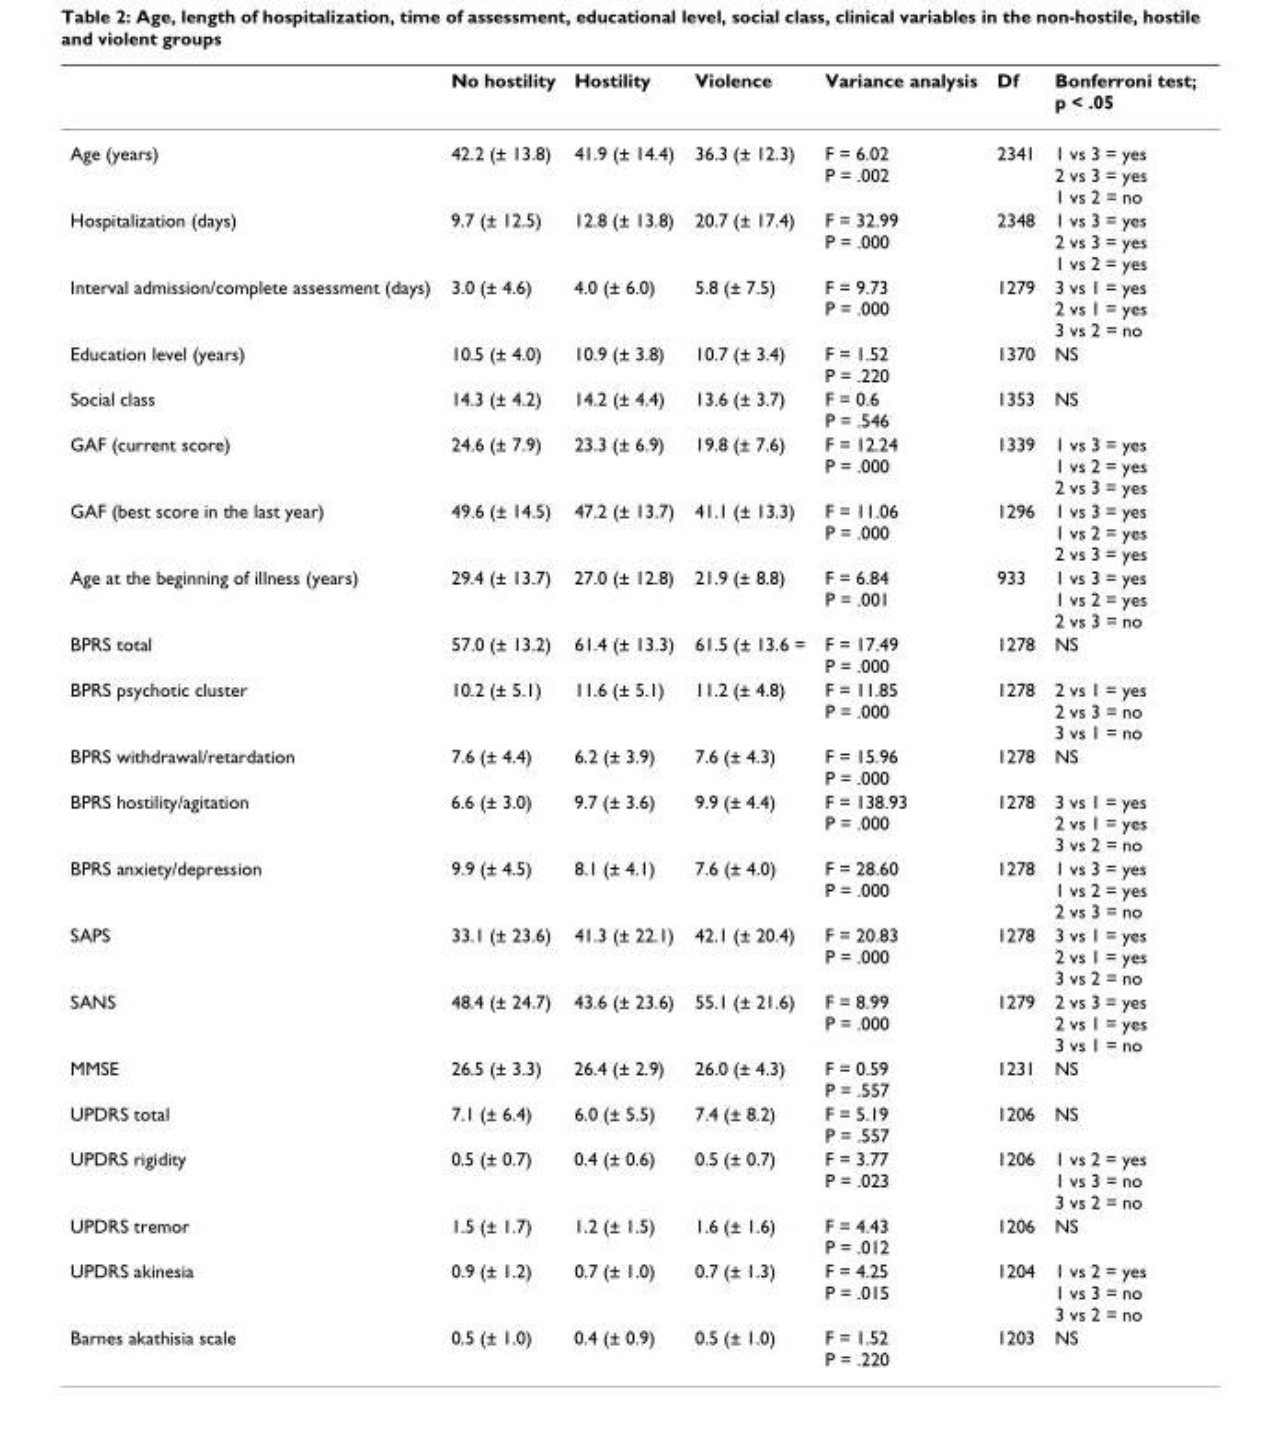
<table><thead><tr><td></td><td>No hostility</td><td>Hostility</td><td>Violence</td><td>Variance analysis</td><td>Df</td><td>Bonferroni test; p &lt; .05</td></tr></thead><tbody><tr><td>Age (years)</td><td>42.2 (± 13.8)</td><td>41.9 (± 14.4)</td><td>36.3 (± 12.3)</td><td>F = 6.02 P = .002</td><td>2341</td><td>1 vs 3 = yes 2 vs 3 = yes 1 vs 2 = no</td></tr><tr><td>Hospitalization (days)</td><td>9.7 (± 12.5)</td><td>12.8 (± 13.8)</td><td>20.7 (± 17.4)</td><td>F = 32.99 P = .000</td><td>2348</td><td>1 vs 3 = yes 2 vs 3 = yes 1 vs 2 = yes</td></tr><tr><td>Interval admission/complete assessment (days)</td><td>3.0 (± 4.6)</td><td>4.0 (± 6.0)</td><td>5.8 (± 7.5)</td><td>F = 9.73 P = .000</td><td>1279</td><td>3 vs 1 = yes 2 vs 1 = yes 3 vs 2 = no</td></tr><tr><td>Education level (years)</td><td>10.5 (± 4.0)</td><td>10.9 (± 3.8)</td><td>10.7 (± 3.4)</td><td>F = 1.52 P = .220</td><td>1370</td><td>NS</td></tr><tr><td>Social class</td><td>14.3 (± 4.2)</td><td>14.2 (± 4.4)</td><td>13.6 (± 3.7)</td><td>F = 0.6 P = .546</td><td>1353</td><td>NS</td></tr><tr><td>GAF (current score)</td><td>24.6 (± 7.9)</td><td>23.3 (± 6.9)</td><td>19.8 (± 7.6)</td><td>F = 12.24 P = .000</td><td>1339</td><td>1 vs 3 = yes 1 vs 2 = yes 2 vs 3 = yes</td></tr><tr><td>GAF (best score in the last year)</td><td>49.6 (± 14.5)</td><td>47.2 (± 13.7)</td><td>41.1 (± 13.3)</td><td>F = 11.06 P = .000</td><td>1296</td><td>1 vs 3 = yes 1 vs 2 = yes 2 vs 3 = yes</td></tr><tr><td>Age at the beginning of illness (years)</td><td>29.4 (± 13.7)</td><td>27.0 (± 12.8)</td><td>21.9 (± 8.8)</td><td>F = 6.84 P = .001</td><td>933</td><td>1 vs 3 = yes 1 vs 2 = yes 2 vs 3 = no</td></tr><tr><td>BPRS total</td><td>57.0 (± 13.2)</td><td>61.4 (± 13.3)</td><td>61.5 (± 13.6 =</td><td>F = 17.49 P = .000</td><td>1278</td><td>NS</td></tr><tr><td>BPRS psychotic cluster</td><td>10.2 (± 5.1)</td><td>11.6 (± 5.1)</td><td>11.2 (± 4.8)</td><td>F = 11.85 P = .000</td><td>1278</td><td>2 vs 1 = yes 2 vs 3 = no 3 vs 1 = no</td></tr><tr><td>BPRS withdrawal/retardation</td><td>7.6 (± 4.4)</td><td>6.2 (± 3.9)</td><td>7.6 (± 4.3)</td><td>F = 15.96 P = .000</td><td>1278</td><td>NS</td></tr><tr><td>BPRS hostility/agitation</td><td>6.6 (± 3.0)</td><td>9.7 (± 3.6)</td><td>9.9 (± 4.4)</td><td>F = 138.93 P = .000</td><td>1278</td><td>3 vs 1 = yes 2 vs 1 = yes 3 vs 2 = no</td></tr><tr><td>BPRS anxiety/depression</td><td>9.9 (± 4.5)</td><td>8.1 (± 4.1)</td><td>7.6 (± 4.0)</td><td>F = 28.60 P = .000</td><td>1278</td><td>1 vs 3 = yes 1 vs 2 = yes 2 vs 3 = no</td></tr><tr><td>SAPS</td><td>33.1 (± 23.6)</td><td>41.3 (± 22.1)</td><td>42.1 (± 20.4)</td><td>F = 20.83 P = .000</td><td>1278</td><td>3 vs 1 = yes 2 vs 1 = yes 3 vs 2 = no</td></tr><tr><td>SANS</td><td>48.4 (± 24.7)</td><td>43.6 (± 23.6)</td><td>55.1 (± 21.6)</td><td>F = 8.99 P = .000</td><td>1279</td><td>2 vs 3 = yes 2 vs 1 = yes 3 vs 1 = no</td></tr><tr><td>MMSE</td><td>26.5 (± 3.3)</td><td>26.4 (± 2.9)</td><td>26.0 (± 4.3)</td><td>F = 0.59 P = .557</td><td>1231</td><td>NS</td></tr><tr><td>UPDRS total</td><td>7.1 (± 6.4)</td><td>6.0 (± 5.5)</td><td>7.4 (± 8.2)</td><td>F = 5.19 P = .557</td><td>1206</td><td>NS</td></tr><tr><td>UPDRS rigidity</td><td>0.5 (± 0.7)</td><td>0.4 (± 0.6)</td><td>0.5 (± 0.7)</td><td>F = 3.77 P = .023</td><td>1206</td><td>1 vs 2 = yes 1 vs 3 = no 3 vs 2 = no</td></tr><tr><td>UPDRS tremor</td><td>1.5 (± 1.7)</td><td>1.2 (± 1.5)</td><td>1.6 (± 1.6)</td><td>F = 4.43 P = .012</td><td>1206</td><td>NS</td></tr><tr><td>UPDRS akinesia</td><td>0.9 (± 1.2)</td><td>0.7 (± 1.0)</td><td>0.7 (± 1.3)</td><td>F = 4.25 P = .015</td><td>1204</td><td>1 vs 2 = yes 1 vs 3 = no 3 vs 2 = no</td></tr><tr><td>Barnes akathisia scale</td><td>0.5 (± 1.0)</td><td>0.4 (± 0.9)</td><td>0.5 (± 1.0)</td><td>F = 1.52 P = .220</td><td>1203</td><td>NS</td></tr></tbody></table>